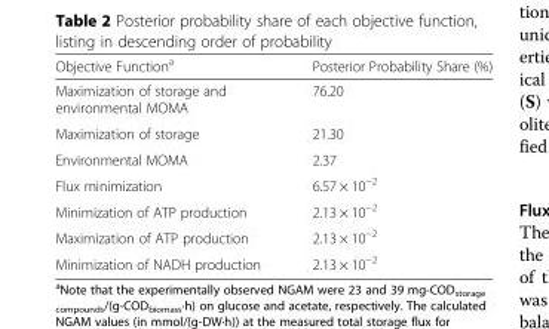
<table><thead><tr><td>Objective Function<sup>a</sup></td><td>Posterior Probability Share (%)</td></tr></thead><tbody><tr><td>Maximization of storage and environmental MOMA</td><td>76.20</td></tr><tr><td>Maximization of storage</td><td>21.30</td></tr><tr><td>Environmental MOMA</td><td>2.37</td></tr><tr><td>Flux minimization</td><td>6.57 × 10<sup>−2</sup></td></tr><tr><td>Minimization of ATP production</td><td>2.13 × 10<sup>−2</sup></td></tr><tr><td>Maximization of ATP production</td><td>2.13 × 10<sup>−2</sup></td></tr><tr><td>Minimization of NADH production</td><td>2.13 × 10<sup>−2</sup></td></tr></tbody></table>